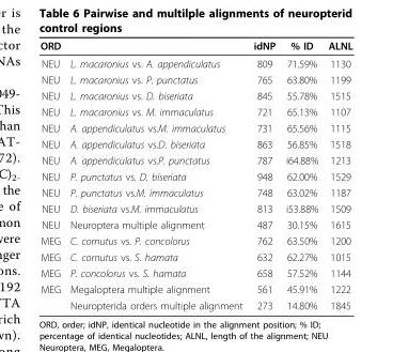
<table><thead><tr><td>ORD</td><td></td><td>idNP</td><td>% ID</td><td>ALNL</td></tr></thead><tbody><tr><td>NEU</td><td>L. macaronius vs. A. appendiculatus</td><td>809</td><td>71.59%</td><td>1130</td></tr><tr><td>NEU</td><td>L. macaronius vs. P. punctatus</td><td>765</td><td>63.80%</td><td>1199</td></tr><tr><td>NEU</td><td>L. macaronius vs. D. biseriata</td><td>845</td><td>55.78%</td><td>1515</td></tr><tr><td>NEU</td><td>L. macaronius vs. M. immaculatus</td><td>721</td><td>65.13%</td><td>1107</td></tr><tr><td>NEU</td><td>A. appendiculatus vs.M. immaculatus</td><td>731</td><td>65.56%</td><td>1115</td></tr><tr><td>NEU</td><td>A. appendiculatus vs.D. biseriata</td><td>863</td><td>56.85%</td><td>1518</td></tr><tr><td>NEU</td><td>A. appendiculatus vs.P. punctatus</td><td>787</td><td>i64.88%</td><td>1213</td></tr><tr><td>NEU</td><td>P. punctatus vs. D. biseriata</td><td>948</td><td>62.00%</td><td>1529</td></tr><tr><td>NEU</td><td>P. punctatus vs.M. immaculatus</td><td>748</td><td>63.02%</td><td>1187</td></tr><tr><td>NEU</td><td>D. biseriata vs.M. immaculatus</td><td>813</td><td>i53.88%</td><td>1509</td></tr><tr><td>NEU</td><td>Neuroptera multiple alignment</td><td>487</td><td>30.15%</td><td>1615</td></tr><tr><td>MEG</td><td>C. cornutus vs. P. concolorus</td><td>762</td><td>63.50%</td><td>1200</td></tr><tr><td>MEG</td><td>C. cornutus vs. S. hamata</td><td>632</td><td>62.27%</td><td>1015</td></tr><tr><td>MEG</td><td>P. concolorus vs. S. hamata</td><td>658</td><td>57.52%</td><td>1144</td></tr><tr><td rowspan="2">MEG</td><td>Megaloptera multiple alignment</td><td>561</td><td>45.91%</td><td>1222</td></tr><tr><td>Neuropterida orders multiple alignment</td><td>273</td><td>14.80%</td><td>1845</td></tr></tbody></table>